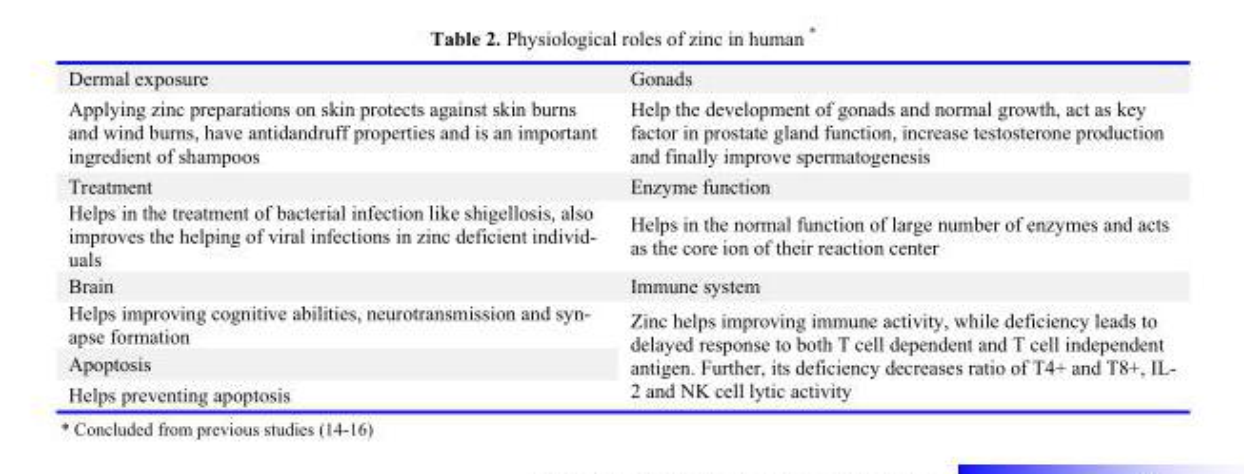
<table><tbody><tr><td>Dermal exposure</td><td>Gonads</td></tr><tr><td>Applying zinc preparations on skin protects against skin burns and wind burns, have antidandruff properties and is an important ingredient of shampoos</td><td>Help the development of gonads and normal growth, act as key factor in prostate gland function, increase testosterone production and finally improve spermatogenesis</td></tr><tr><td>Treatment</td><td>Enzyme function</td></tr><tr><td>Helps in the treatment of bacterial infection like shigellosis, also improves the helping of viral infections in zinc deficient individ- uals</td><td>Helps in the normal function of large number of enzymes and acts as the core ion of their reaction center</td></tr><tr><td>Brain</td><td>Immune system</td></tr><tr><td>Helps improving cognitive abilities, neurotransmission and syn- apse formation</td><td rowspan="3">Zinc helps improving immune activity, while deficiency leads to delayed response to both T cell dependent and T cell independent antigen. Further, its deficiency decreases ratio of T4+ and T8+, IL- 2 and NK cell lytic activity</td></tr><tr><td>Apoptosis</td></tr><tr><td>Helps preventing apoptosis</td></tr></tbody></table>